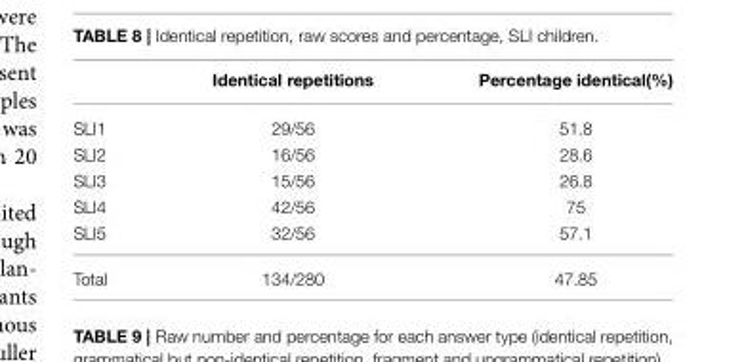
<table><thead><tr><td></td><td>Identical repetitions</td><td>Percentage identical(%)</td></tr></thead><tbody><tr><td>SLI1</td><td>29/56</td><td>51.8</td></tr><tr><td>SLI2</td><td>16/56</td><td>28.6</td></tr><tr><td>SLI3</td><td>15/56</td><td>26.8</td></tr><tr><td>SLI4</td><td>42/56</td><td>75</td></tr><tr><td>SLI5</td><td>32/56</td><td>57.1</td></tr><tr><td>Total</td><td>134/280</td><td>47.85</td></tr></tbody></table>